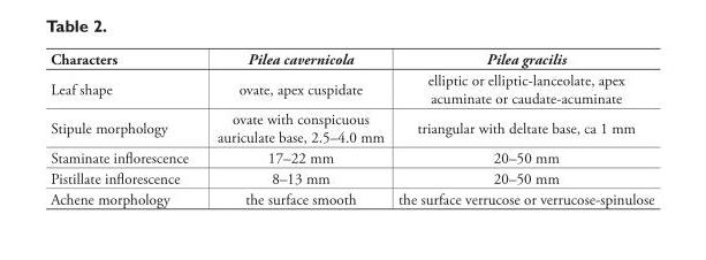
<table><thead><tr><td>Characters</td><td>Pilea cavernicola</td><td>Pilea gracilis</td></tr></thead><tbody><tr><td>Leaf shape</td><td>ovate, apex cuspidate</td><td>elliptic or elliptic-lanceolate, apex acuminate or caudate-acuminate</td></tr><tr><td>Stipule morphology</td><td>ovate with conspicuous auriculate base, 2.5–4.0 mm</td><td>triangular with deltate base, ca 1 mm</td></tr><tr><td>Staminate infl orescence</td><td>17–22 mm</td><td>20–50 mm</td></tr><tr><td>Pistillate infl orescence</td><td>8–13 mm</td><td>20–50 mm</td></tr><tr><td>Achene morphology</td><td>the surface smooth</td><td>the surface verrucose or verrucose-spinulose</td></tr></tbody></table>